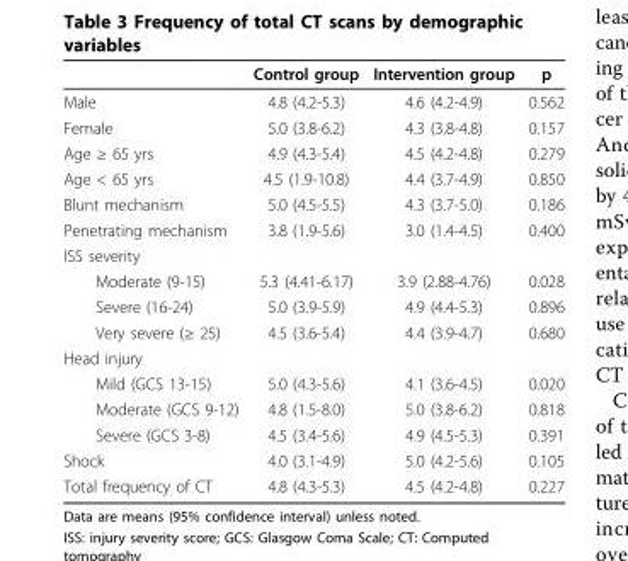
<table><thead><tr><td></td><td>Control group</td><td>Intervention group</td><td>p</td></tr></thead><tbody><tr><td>Male</td><td>4.8 (4.2-5.3)</td><td>4.6 (4.2-4.9)</td><td>0.562</td></tr><tr><td>Female</td><td>5.0 (3.8-6.2)</td><td>4.3 (3.8-4.8)</td><td>0.157</td></tr><tr><td>Age ≥ 65 yrs</td><td>4.9 (4.3-5.4)</td><td>4.5 (4.2-4.8)</td><td>0.279</td></tr><tr><td>Age &lt; 65 yrs</td><td>4.5 (1.9-10.8)</td><td>4.4 (3.7-4.9)</td><td>0.850</td></tr><tr><td>Blunt mechanism</td><td>5.0 (4.5-5.5)</td><td>4.3 (3.7-5.0)</td><td>0.186</td></tr><tr><td>Penetrating mechanism</td><td>3.8 (1.9-5.6)</td><td>3.0 (1.4-4.5)</td><td>0.400</td></tr><tr><td colspan="4">ISS severity</td></tr><tr><td>Moderate (9-15)</td><td>5.3 (4.41-6.17)</td><td>3.9 (2.88-4.76)</td><td>0.028</td></tr><tr><td>Severe (16-24)</td><td>5.0 (3.9-5.9)</td><td>4.9 (4.4-5.3)</td><td>0.896</td></tr><tr><td>Very severe (≥ 25)</td><td>4.5 (3.6-5.4)</td><td>4.4 (3.9-4.7)</td><td>0.680</td></tr><tr><td colspan="4">Head injury</td></tr><tr><td>Mild (GCS 13-15)</td><td>5.0 (4.3-5.6)</td><td>4.1 (3.6-4.5)</td><td>0.020</td></tr><tr><td>Moderate (GCS 9-12)</td><td>4.8 (1.5-8.0)</td><td>5.0 (3.8-6.2)</td><td>0.818</td></tr><tr><td>Severe (GCS 3-8)</td><td>4.5 (3.4-5.6)</td><td>4.9 (4.5-5.3)</td><td>0.391</td></tr><tr><td>Shock</td><td>4.0 (3.1-4.9)</td><td>5.0 (4.2-5.6)</td><td>0.105</td></tr><tr><td>Total frequency of CT</td><td>4.8 (4.3-5.3)</td><td>4.5 (4.2-4.8)</td><td>0.227</td></tr></tbody></table>